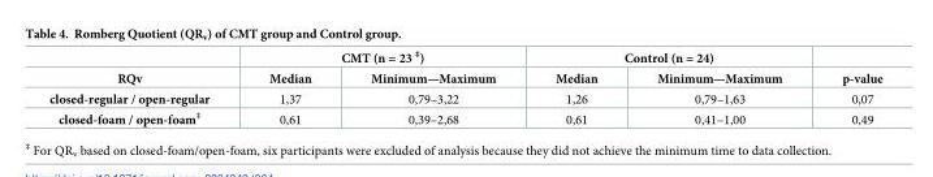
<table><thead><tr><td rowspan="2">RQv</td><td colspan="2">CMT (n = 23 <sup>‡</sup>)</td><td colspan="2">Control (n = 24)</td><td rowspan="2">p-value</td></tr><tr><td>Median</td><td>Minimum—Maximum</td><td>Median</td><td>Minimum—Maximum</td></tr></thead><tbody><tr><td>closed-regular / open-regular</td><td>1,37</td><td>0,79–3,22</td><td>1,26</td><td>0,79–1,63</td><td>0,07</td></tr><tr><td>closed-foam / open-foam<sup>‡</sup></td><td>0,61</td><td>0,39–2,68</td><td>0,61</td><td>0,41–1,00</td><td>0,49</td></tr></tbody></table>